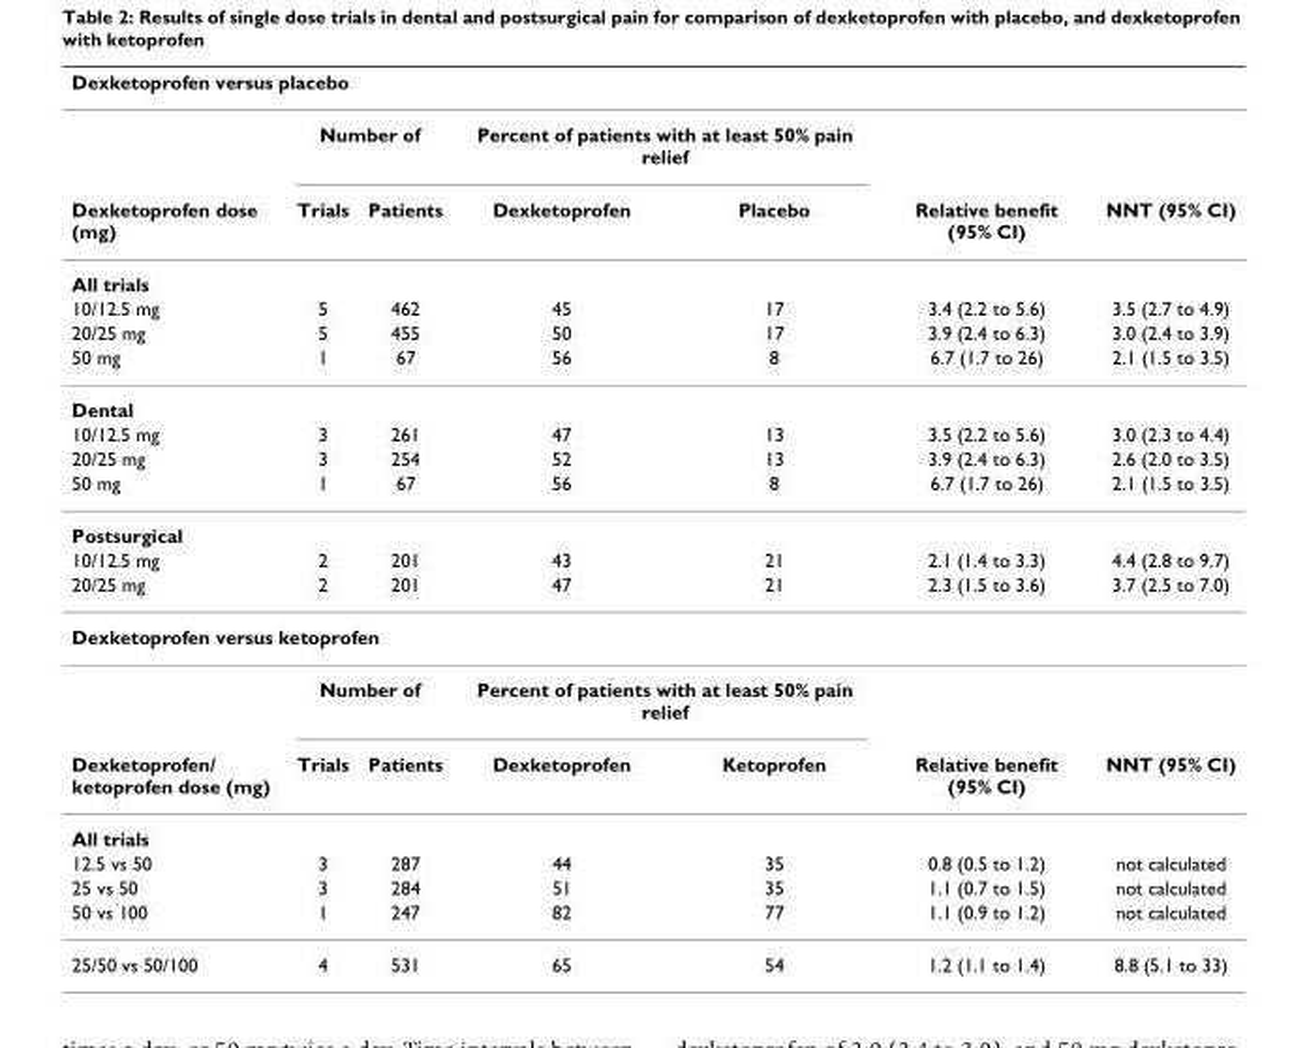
<table><thead><tr><td colspan="7">Dexketoprofen versus placebo</td></tr><tr><td rowspan="2">Dexketoprofen dose (mg)</td><td colspan="2">Number of</td><td colspan="2">Percent of patients with at least 50% pain relief</td><td rowspan="2">Relative benefit (95% CI)</td><td rowspan="2">NNT (95% CI)</td></tr><tr><td>Trials</td><td>Patients</td><td>Dexketoprofen</td><td>Placebo</td></tr></thead><tbody><tr><td colspan="7">All trials</td></tr><tr><td>10/12.5 mg</td><td>5</td><td>462</td><td>45</td><td>17</td><td>3.4 (2.2 to 5.6)</td><td>3.5 (2.7 to 4.9)</td></tr><tr><td>20/25 mg</td><td>5</td><td>455</td><td>50</td><td>17</td><td>3.9 (2.4 to 6.3)</td><td>3.0 (2.4 to 3.9)</td></tr><tr><td>50 mg</td><td>1</td><td>67</td><td>56</td><td>8</td><td>6.7 (1.7 to 26)</td><td>2.1 (1.5 to 3.5)</td></tr><tr><td colspan="7">Dental</td></tr><tr><td>10/12.5 mg</td><td>3</td><td>261</td><td>47</td><td>13</td><td>3.5 (2.2 to 5.6)</td><td>3.0 (2.3 to 4.4)</td></tr><tr><td>20/25 mg</td><td>3</td><td>254</td><td>52</td><td>13</td><td>3.9 (2.4 to 6.3)</td><td>2.6 (2.0 to 3.5)</td></tr><tr><td>50 mg</td><td>1</td><td>67</td><td>56</td><td>8</td><td>6.7 (1.7 to 26)</td><td>2.1 (1.5 to 3.5)</td></tr><tr><td colspan="7">Postsurgical</td></tr><tr><td>10/12.5 mg</td><td>2</td><td>201</td><td>43</td><td>21</td><td>2.1 (1.4 to 3.3)</td><td>4.4 (2.8 to 9.7)</td></tr><tr><td>20/25 mg</td><td>2</td><td>201</td><td>47</td><td>21</td><td>2.3 (1.5 to 3.6)</td><td>3.7 (2.5 to 7.0)</td></tr><tr><td colspan="7">Dexketoprofen versus ketoprofen</td></tr><tr><td></td><td colspan="2">Number of</td><td colspan="2">Percent of patients with at least 50% pain relief</td><td></td><td></td></tr><tr><td>Dexketoprofen/ ketoprofen dose (mg)</td><td>Trials</td><td>Patients</td><td>Dexketoprofen</td><td>Ketoprofen</td><td>Relative benefit (95% CI)</td><td>NNT (95% CI)</td></tr><tr><td colspan="7">All trials</td></tr><tr><td>12.5 vs 50</td><td>3</td><td>287</td><td>44</td><td>35</td><td>0.8 (0.5 to 1.2)</td><td>not calculated</td></tr><tr><td>25 vs 50</td><td>3</td><td>284</td><td>51</td><td>35</td><td>1.1 (0.7 to 1.5)</td><td>not calculated</td></tr><tr><td>50 vs 100</td><td>1</td><td>247</td><td>82</td><td>77</td><td>1.1 (0.9 to 1.2)</td><td>not calculated</td></tr><tr><td>25/50 vs 50/100</td><td>4</td><td>531</td><td>65</td><td>54</td><td>1.2 (1.1 to 1.4)</td><td>8.8 (5.1 to 33)</td></tr></tbody></table>